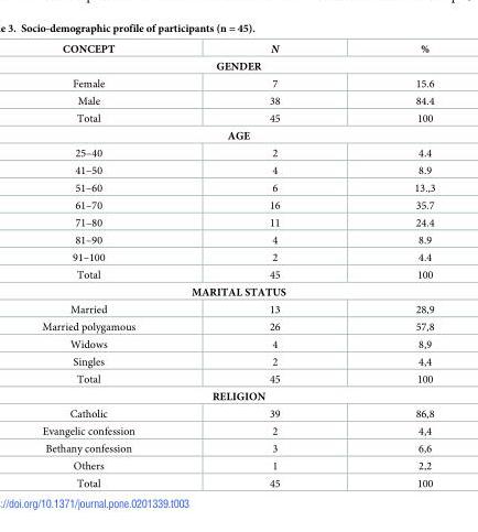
<table><thead><tr><td>CONCEPT</td><td>N</td><td>%</td></tr></thead><tbody><tr><td colspan="3">GENDER</td></tr><tr><td>Female</td><td>7</td><td>15.6</td></tr><tr><td>Male</td><td>38</td><td>84.4</td></tr><tr><td>Total</td><td>45</td><td>100</td></tr><tr><td colspan="3">AGE</td></tr><tr><td>25–40</td><td>2</td><td>4.4</td></tr><tr><td>41–50</td><td>4</td><td>8.9</td></tr><tr><td>51–60</td><td>6</td><td>13.,3</td></tr><tr><td>61–70</td><td>16</td><td>35.7</td></tr><tr><td>71–80</td><td>11</td><td>24.4</td></tr><tr><td>81–90</td><td>4</td><td>8.9</td></tr><tr><td>91–100</td><td>2</td><td>4.4</td></tr><tr><td>Total</td><td>45</td><td>100</td></tr><tr><td colspan="3">MARITAL STATUS</td></tr><tr><td>Married</td><td>13</td><td>28,9</td></tr><tr><td>Married polygamous</td><td>26</td><td>57,8</td></tr><tr><td>Widows</td><td>4</td><td>8,9</td></tr><tr><td>Singles</td><td>2</td><td>4,4</td></tr><tr><td>Total</td><td>45</td><td>100</td></tr><tr><td colspan="3">RELIGION</td></tr><tr><td>Catholic</td><td>39</td><td>86,8</td></tr><tr><td>Evangelic confession</td><td>2</td><td>4,4</td></tr><tr><td>Bethany confession</td><td>3</td><td>6,6</td></tr><tr><td>Others</td><td>1</td><td>2,2</td></tr><tr><td>Total</td><td>45</td><td>100</td></tr></tbody></table>